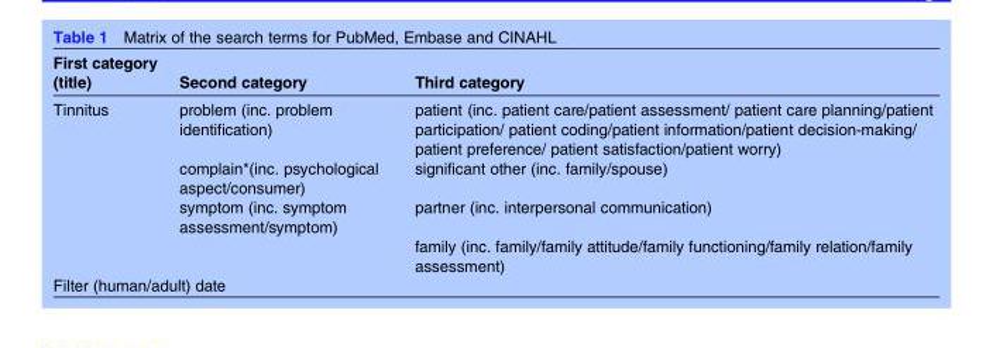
<table><thead><tr><td>First category (title)</td><td>Second category</td><td>Third category</td></tr></thead><tbody><tr><td rowspan="4">Tinnitus</td><td>problem (inc. problem identification)</td><td>patient (inc. patient care/patient assessment/ patient care planning/patient participation/ patient coding/patient information/patient decision-making/ patient preference/ patient satisfaction/patient worry)</td></tr><tr><td>complain*(inc. psychological aspect/consumer)</td><td>significant other (inc. family/spouse)</td></tr><tr><td>symptom (inc. symptom assessment/symptom)</td><td>partner (inc. interpersonal communication)</td></tr><tr><td></td><td>family (inc. family/family attitude/family functioning/family relation/family assessment)</td></tr><tr><td colspan="3">Filter (human/adult) date</td></tr></tbody></table>